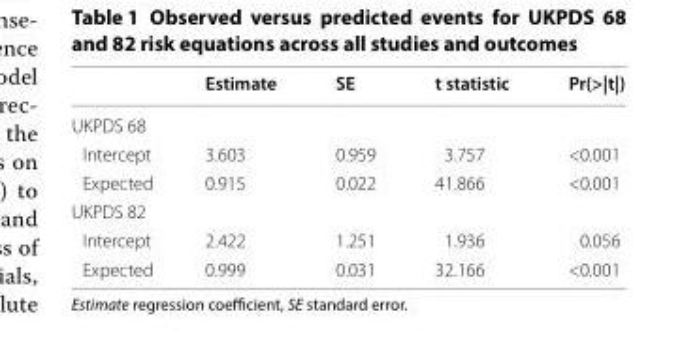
<table><thead><tr><td></td><td>Estimate</td><td>SE</td><td>t statistic</td><td>Pr(&gt;|t|)</td></tr></thead><tbody><tr><td colspan="5">UKPDS 68</td></tr><tr><td>Intercept</td><td>3.603</td><td>0.959</td><td>3.757</td><td>&lt;0.001</td></tr><tr><td>Expected</td><td>0.915</td><td>0.022</td><td>41.866</td><td>&lt;0.001</td></tr><tr><td colspan="5">UKPDS 82</td></tr><tr><td>Intercept</td><td>2.422</td><td>1.251</td><td>1.936</td><td>0.056</td></tr><tr><td>Expected</td><td>0.999</td><td>0.031</td><td>32.166</td><td>&lt;0.001</td></tr></tbody></table>